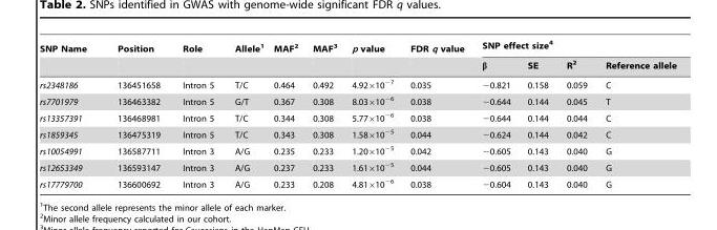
<table><thead><tr><td rowspan="2">SNP Name</td><td rowspan="2">Position</td><td rowspan="2">Role</td><td rowspan="2">Allele<sup>1</sup></td><td rowspan="2">MAF<sup>2</sup></td><td rowspan="2">MAF<sup>3</sup></td><td rowspan="2">p value</td><td rowspan="2">FDR q value</td><td colspan="4">SNP effect size<sup>4</sup></td></tr><tr><td>β</td><td>SE</td><td>R<sup>2</sup></td><td>Reference allele</td></tr></thead><tbody><tr><td>rs2348186</td><td>136451658</td><td>Intron 5</td><td>T/C</td><td>0.464</td><td>0.492</td><td>4.92×10<sup>−7</sup></td><td>0.035</td><td>−0.821</td><td>0.158</td><td>0.059</td><td>C</td></tr><tr><td>rs7701979</td><td>136463382</td><td>Intron 5</td><td>G/T</td><td>0.367</td><td>0.308</td><td>8.03×10<sup>−6</sup></td><td>0.038</td><td>−0.644</td><td>0.144</td><td>0.045</td><td>T</td></tr><tr><td>rs13357391</td><td>136468981</td><td>Intron 5</td><td>T/C</td><td>0.344</td><td>0.308</td><td>5.77×10<sup>−6</sup></td><td>0.038</td><td>−0.644</td><td>0.144</td><td>0.044</td><td>C</td></tr><tr><td>rs1859345</td><td>136475319</td><td>Intron 5</td><td>T/C</td><td>0.343</td><td>0.308</td><td>1.58×10<sup>−5</sup></td><td>0.044</td><td>−0.624</td><td>0.144</td><td>0.042</td><td>C</td></tr><tr><td>rs10054991</td><td>136587711</td><td>Intron 3</td><td>A/G</td><td>0.235</td><td>0.233</td><td>1.20×10<sup>−5</sup></td><td>0.042</td><td>−0.605</td><td>0.143</td><td>0.040</td><td>G</td></tr><tr><td>rs12653349</td><td>136593147</td><td>Intron 3</td><td>A/G</td><td>0.237</td><td>0.233</td><td>1.61×10<sup>−5</sup></td><td>0.044</td><td>−0.605</td><td>0.143</td><td>0.040</td><td>G</td></tr><tr><td>rs17779700</td><td>136600692</td><td>Intron 3</td><td>A/G</td><td>0.233</td><td>0.208</td><td>4.81×10<sup>−6</sup></td><td>0.038</td><td>−0.604</td><td>0.143</td><td>0.040</td><td>G</td></tr></tbody></table>